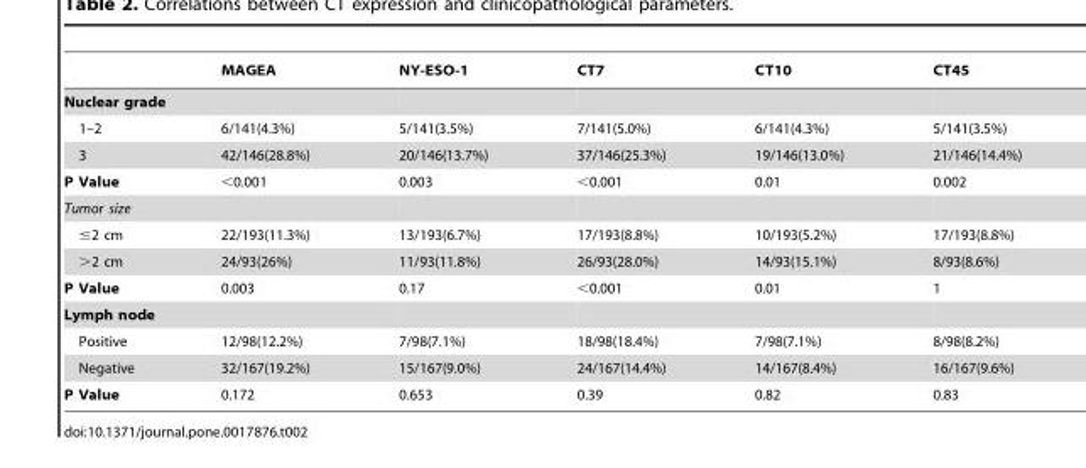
<table><thead><tr><td></td><td>MAGEA</td><td>NY-ESO-1</td><td>CT7</td><td>CT10</td><td>CT45</td></tr></thead><tbody><tr><td colspan="6">Nuclear grade</td></tr><tr><td>1–2</td><td>6/141(4.3%)</td><td>5/141(3.5%)</td><td>7/141(5.0%)</td><td>6/141(4.3%)</td><td>5/141(3.5%)</td></tr><tr><td>3</td><td>42/146(28.8%)</td><td>20/146(13.7%)</td><td>37/146(25.3%)</td><td>19/146(13.0%)</td><td>21/146(14.4%)</td></tr><tr><td>P Value</td><td>&lt;0.001</td><td>0.003</td><td>&lt;0.001</td><td>0.01</td><td>0.002</td></tr><tr><td colspan="6">Tumor size</td></tr><tr><td>≤2 cm</td><td>22/193(11.3%)</td><td>13/193(6.7%)</td><td>17/193(8.8%)</td><td>10/193(5.2%)</td><td>17/193(8.8%)</td></tr><tr><td>&gt;2 cm</td><td>24/93(26%)</td><td>11/93(11.8%)</td><td>26/93(28.0%)</td><td>14/93(15.1%)</td><td>8/93(8.6%)</td></tr><tr><td>P Value</td><td>0.003</td><td>0.17</td><td>&lt;0.001</td><td>0.01</td><td>1</td></tr><tr><td colspan="6">Lymph node</td></tr><tr><td>Positive</td><td>12/98(12.2%)</td><td>7/98(7.1%)</td><td>18/98(18.4%)</td><td>7/98(7.1%)</td><td>8/98(8.2%)</td></tr><tr><td>Negative</td><td>32/167(19.2%)</td><td>15/167(9.0%)</td><td>24/167(14.4%)</td><td>14/167(8.4%)</td><td>16/167(9.6%)</td></tr><tr><td>P Value</td><td>0.172</td><td>0.653</td><td>0.39</td><td>0.82</td><td>0.83</td></tr></tbody></table>